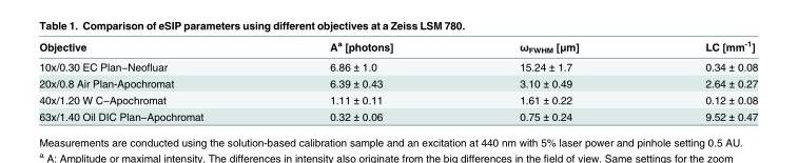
<table><thead><tr><td>Objective</td><td>A<sup>a</sup> [photons]</td><td>ω<sub>FWHM</sub> [μm]</td><td>LC [mm<sup>-1</sup>]</td></tr></thead><tbody><tr><td>10x/0.30 EC Plan−Neofluar</td><td>6.86 ± 1.0</td><td>15.24 ± 1.7</td><td>0.34 ± 0.08</td></tr><tr><td>20x/0.8 Air Plan-Apochromat</td><td>6.39 ± 0.43</td><td>3.10 ± 0.49</td><td>2.64 ± 0.27</td></tr><tr><td>40x/1.20 W C−Apochromat</td><td>1.11 ± 0.11</td><td>1.61 ± 0.22</td><td>0.12 ± 0.08</td></tr><tr><td>63x/1.40 Oil DIC Plan−Apochromat</td><td>0.32 ± 0.06</td><td>0.75 ± 0.24</td><td>9.52 ± 0.47</td></tr></tbody></table>